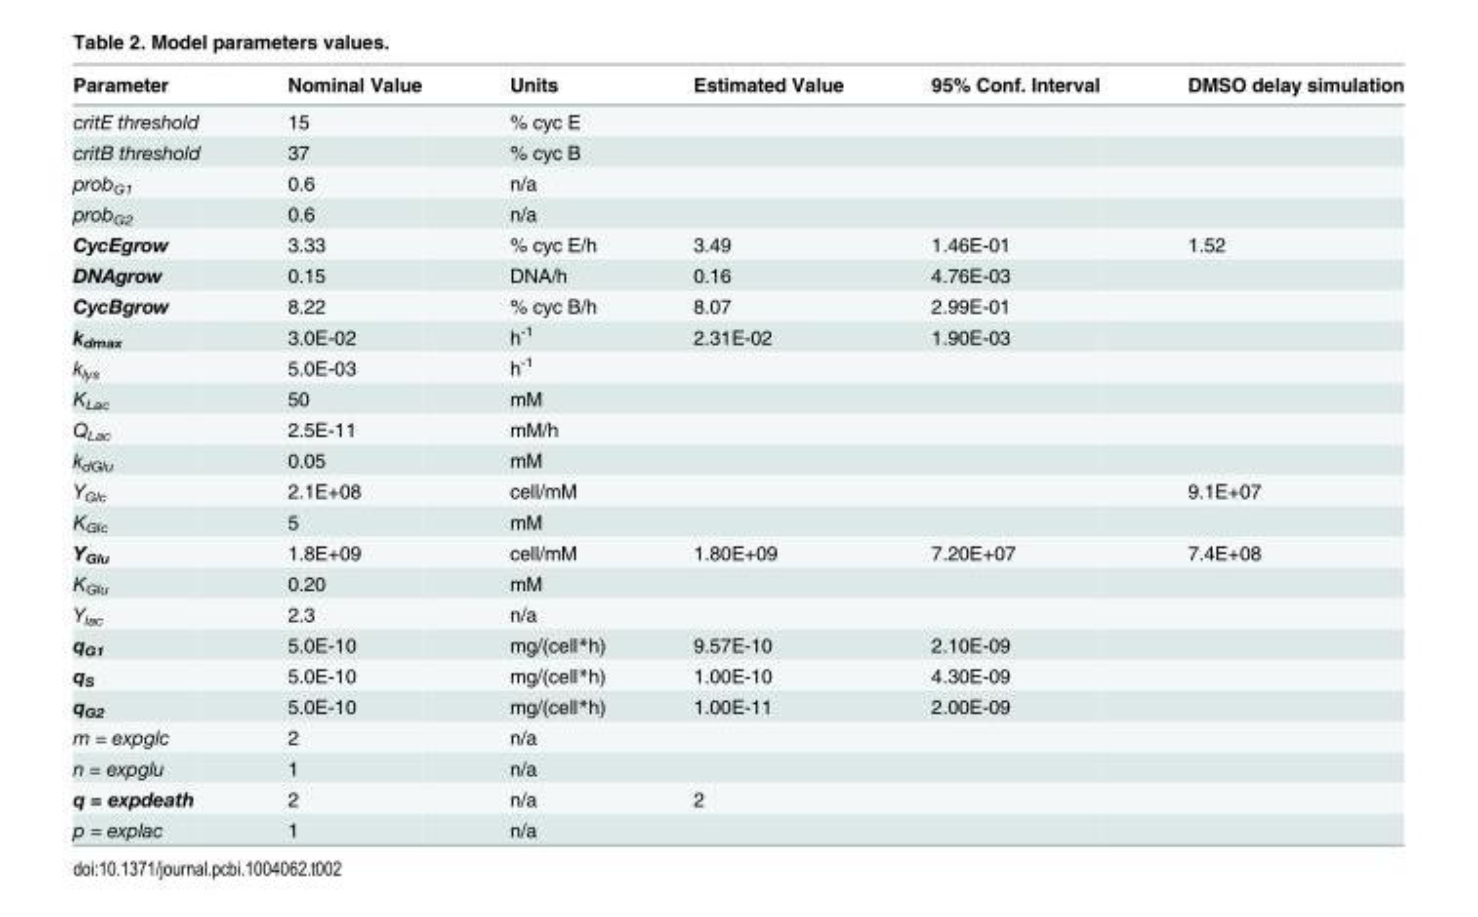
<table><thead><tr><td>Parameter</td><td>Nominal Value</td><td>Units</td><td>Estimated Value</td><td>95% Conf. Interval</td><td>DMSO delay simulation</td></tr></thead><tbody><tr><td>critE threshold</td><td>15</td><td>% cyc E</td><td></td><td></td><td></td></tr><tr><td>critB threshold</td><td>37</td><td>% cyc B</td><td></td><td></td><td></td></tr><tr><td>prob<sub>G1</sub></td><td>0.6</td><td>n/a</td><td></td><td></td><td></td></tr><tr><td>prob<sub>G2</sub></td><td>0.6</td><td>n/a</td><td></td><td></td><td></td></tr><tr><td>CycEgrow</td><td>3.33</td><td>% cyc E/h</td><td>3.49</td><td>1.46E-01</td><td>1.52</td></tr><tr><td>DNAgrow</td><td>0.15</td><td>DNA/h</td><td>0.16</td><td>4.76E-03</td><td></td></tr><tr><td>CycBgrow</td><td>8.22</td><td>% cyc B/h</td><td>8.07</td><td>2.99E-01</td><td></td></tr><tr><td>k<sub>dmax</sub></td><td>3.0E-02</td><td>h<sup>-1</sup></td><td>2.31E-02</td><td>1.90E-03</td><td></td></tr><tr><td>k<sub>lys</sub></td><td>5.0E-03</td><td>h<sup>-1</sup></td><td></td><td></td><td></td></tr><tr><td>K<sub>Lac</sub></td><td>50</td><td>mM</td><td></td><td></td><td></td></tr><tr><td>Q<sub>Lac</sub></td><td>2.5E-11</td><td>mM/h</td><td></td><td></td><td></td></tr><tr><td>k<sub>dGlu</sub></td><td>0.05</td><td>mM</td><td></td><td></td><td></td></tr><tr><td>Y<sub>Glc</sub></td><td>2.1E+08</td><td>cell/mM</td><td></td><td></td><td>9.1E+07</td></tr><tr><td>K<sub>Glc</sub></td><td>5</td><td>mM</td><td></td><td></td><td></td></tr><tr><td>Y<sub>Glu</sub></td><td>1.8E+09</td><td>cell/mM</td><td>1.80E+09</td><td>7.20E+07</td><td>7.4E+08</td></tr><tr><td>K<sub>Glu</sub></td><td>0.20</td><td>mM</td><td></td><td></td><td></td></tr><tr><td>Y<sub>lac</sub></td><td>2.3</td><td>n/a</td><td></td><td></td><td></td></tr><tr><td>q<sub>G1</sub></td><td>5.0E-10</td><td>mg/(cell*h)</td><td>9.57E-10</td><td>2.10E-09</td><td></td></tr><tr><td>q<sub>S</sub></td><td>5.0E-10</td><td>mg/(cell*h)</td><td>1.00E-10</td><td>4.30E-09</td><td></td></tr><tr><td>q<sub>G2</sub></td><td>5.0E-10</td><td>mg/(cell*h)</td><td>1.00E-11</td><td>2.00E-09</td><td></td></tr><tr><td>m = expglc</td><td>2</td><td>n/a</td><td></td><td></td><td></td></tr><tr><td>n = expglu</td><td>1</td><td>n/a</td><td></td><td></td><td></td></tr><tr><td>q = expdeath</td><td>2</td><td>n/a</td><td>2</td><td></td><td></td></tr><tr><td>p = explac</td><td>1</td><td>n/a</td><td></td><td></td><td></td></tr></tbody></table>